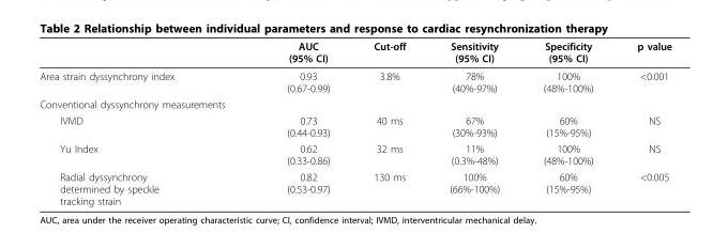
<table><thead><tr><td></td><td>AUC (95% CI)</td><td>Cut-off</td><td>Sensitivity (95% CI)</td><td>Specificity (95% CI)</td><td>p value</td></tr></thead><tbody><tr><td>Area strain dyssynchrony index</td><td>0.93 (0.67-0.99)</td><td>3.8%</td><td>78% (40%-97%)</td><td>100% (48%-100%)</td><td>&lt;0.001</td></tr><tr><td colspan="6">Conventional dyssynchrony measurements</td></tr><tr><td>IVMD</td><td>0.73 (0.44-0.93)</td><td>40 ms</td><td>67% (30%-93%)</td><td>60% (15%-95%)</td><td>NS</td></tr><tr><td>Yu Index</td><td>0.62 (0.33-0.86)</td><td>32 ms</td><td>11% (0.3%-48%)</td><td>100% (48%-100%)</td><td>NS</td></tr><tr><td>Radial dyssynchrony determined by speckle tracking strain</td><td>0.82 (0.53-0.97)</td><td>130 ms</td><td>100% (66%-100%)</td><td>60% (15%-95%)</td><td>&lt;0.005</td></tr></tbody></table>